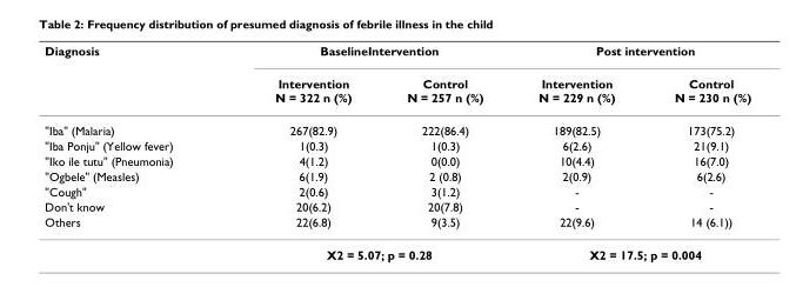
<table><thead><tr><td rowspan="2">Diagnosis</td><td colspan="2">BaselineIntervention</td><td colspan="2">Post intervention</td></tr><tr><td>Intervention N = 322 n (%)</td><td>Control N = 257 n (%)</td><td>Intervention N = 229 n (%)</td><td>Control N = 230 n (%)</td></tr></thead><tbody><tr><td>&quot;Iba&quot; (Malaria)</td><td>267(82.9)</td><td>222(86.4)</td><td>189(82.5)</td><td>173(75.2)</td></tr><tr><td>&quot;Iba Ponju&quot; (Yellow fever)</td><td>1(0.3)</td><td>1(0.3)</td><td>6(2.6)</td><td>21(9.1)</td></tr><tr><td>&quot;Iko ile tutu&quot; (Pneumonia)</td><td>4(1.2)</td><td>0(0.0)</td><td>10(4.4)</td><td>16(7.0)</td></tr><tr><td>&quot;Ogbele&quot; (Measles)</td><td>6(1.9)</td><td>2 (0.8)</td><td>2(0.9)</td><td>6(2.6)</td></tr><tr><td>&quot;Cough&quot;</td><td>2(0.6)</td><td>3(1.2)</td><td>-</td><td>-</td></tr><tr><td>Don&#x27;t know</td><td>20(6.2)</td><td>20(7.8)</td><td>-</td><td>-</td></tr><tr><td rowspan="2">Others</td><td>22(6.8)</td><td>9(3.5)</td><td>22(9.6)</td><td>14 (6.1))</td></tr><tr><td colspan="2">X2 = 5.07; p = 0.28</td><td colspan="2">X2 = 17.5; p = 0.004</td></tr></tbody></table>